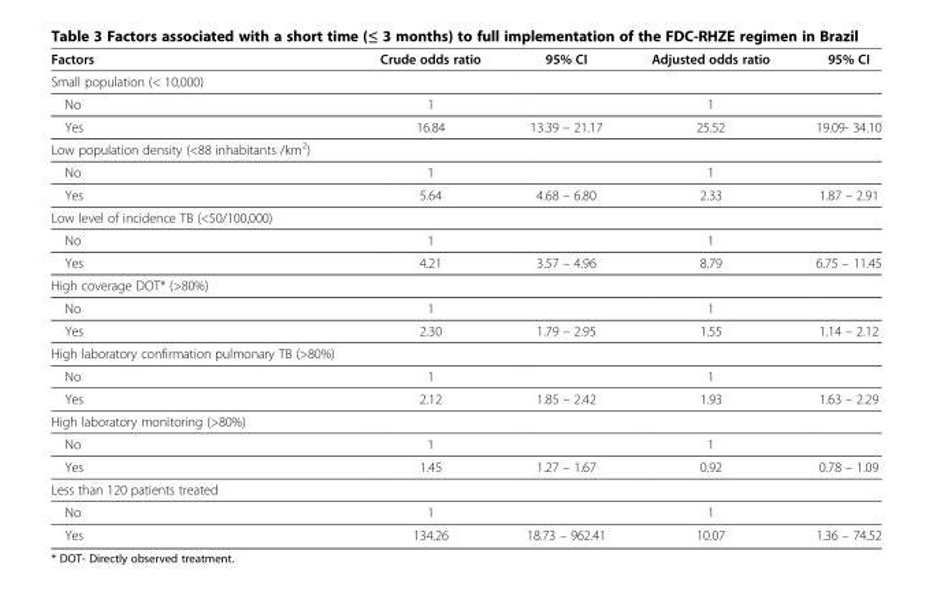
<table><thead><tr><td>Factors</td><td>Crude odds ratio</td><td>95% CI</td><td>Adjusted odds ratio</td><td>95% CI</td></tr></thead><tbody><tr><td colspan="5">Small population (&lt; 10,000)</td></tr><tr><td>No</td><td>1</td><td></td><td>1</td><td></td></tr><tr><td>Yes</td><td>16.84</td><td>13.39 – 21.17</td><td>25.52</td><td>19.09- 34.10</td></tr><tr><td colspan="5">Low population density (&lt;88 inhabitants /km<sup>2</sup>)</td></tr><tr><td>No</td><td>1</td><td></td><td>1</td><td></td></tr><tr><td>Yes</td><td>5.64</td><td>4.68 – 6.80</td><td>2.33</td><td>1.87 – 2.91</td></tr><tr><td colspan="5">Low level of incidence TB (&lt;50/100,000)</td></tr><tr><td>No</td><td>1</td><td></td><td>1</td><td></td></tr><tr><td>Yes</td><td>4.21</td><td>3.57 – 4.96</td><td>8.79</td><td>6.75 – 11.45</td></tr><tr><td colspan="5">High coverage DOT* (&gt;80%)</td></tr><tr><td>No</td><td>1</td><td></td><td>1</td><td></td></tr><tr><td>Yes</td><td>2.30</td><td>1.79 – 2.95</td><td>1.55</td><td>1.14 – 2.12</td></tr><tr><td colspan="5">High laboratory confirmation pulmonary TB (&gt;80%)</td></tr><tr><td>No</td><td>1</td><td></td><td>1</td><td></td></tr><tr><td>Yes</td><td>2.12</td><td>1.85 – 2.42</td><td>1.93</td><td>1.63 – 2.29</td></tr><tr><td colspan="5">High laboratory monitoring (&gt;80%)</td></tr><tr><td>No</td><td>1</td><td></td><td>1</td><td></td></tr><tr><td>Yes</td><td>1.45</td><td>1.27 – 1.67</td><td>0.92</td><td>0.78 – 1.09</td></tr><tr><td colspan="5">Less than 120 patients treated</td></tr><tr><td>No</td><td>1</td><td></td><td>1</td><td></td></tr><tr><td>Yes</td><td>134.26</td><td>18.73 – 962.41</td><td>10.07</td><td>1.36 – 74.52</td></tr></tbody></table>